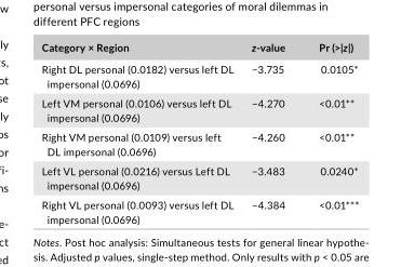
<table><thead><tr><td>Category × Region</td><td>z‐value</td><td>Pr (&gt;|z|)</td></tr></thead><tbody><tr><td>Right DL personal (0.0182) versus left DL impersonal (0.0696)</td><td>−3.735</td><td>0.0105*</td></tr><tr><td>Left VM personal (0.0106) versus left DL impersonal (0.0696)</td><td>−4.270</td><td>&lt;0.01**</td></tr><tr><td>Right VM personal (0.0109) versus left DL impersonal (0.0696)</td><td>−4.260</td><td>&lt;0.01**</td></tr><tr><td>Left VL personal (0.0216) versus Left DL impersonal (0.0696)</td><td>−3.483</td><td>0.0240*</td></tr><tr><td>Right VL personal (0.0093) versus left DL impersonal (0.0696)</td><td>−4.384</td><td>&lt;0.01***</td></tr></tbody></table>